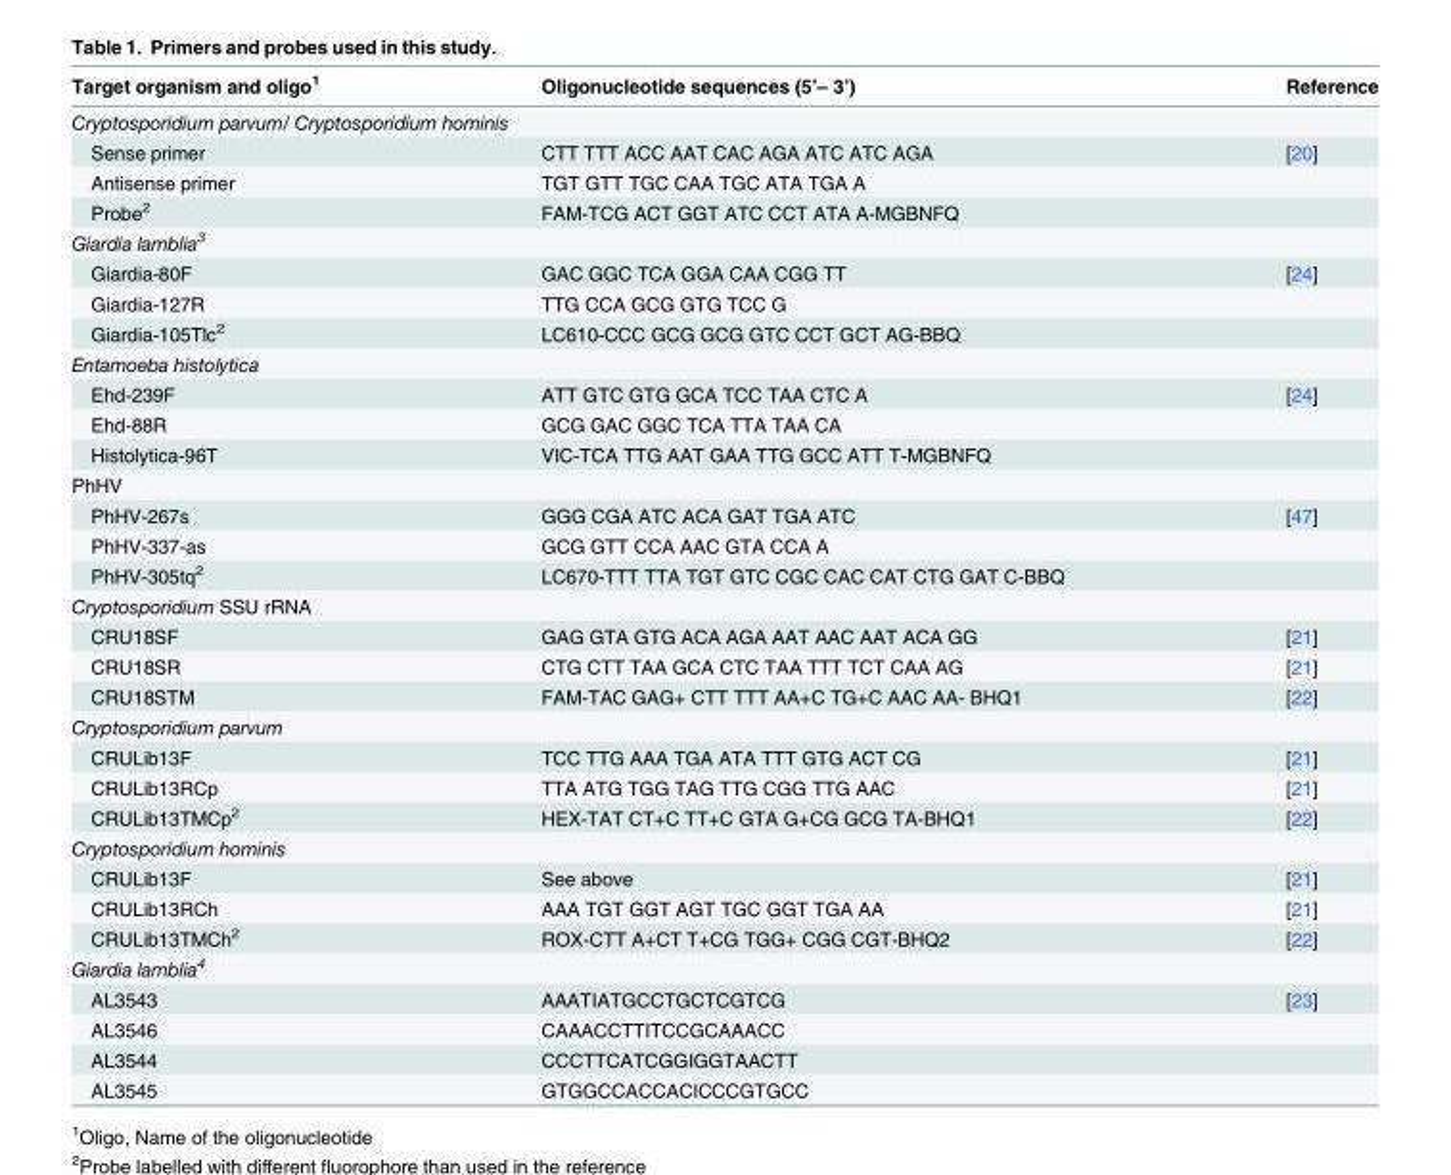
<table><thead><tr><td>Target organism and oligo<sup>1</sup></td><td>Oligonucleotide sequences (5’– 3’)</td><td>Reference</td></tr></thead><tbody><tr><td colspan="3">Cryptosporidium parvum/ Cryptosporidium hominis</td></tr><tr><td>Sense primer</td><td>CTT TTT ACC AAT CAC AGA ATC ATC AGA</td><td>[20]</td></tr><tr><td>Antisense primer</td><td>TGT GTT TGC CAA TGC ATA TGA A</td><td></td></tr><tr><td>Probe<sup>2</sup></td><td>FAM-TCG ACT GGT ATC CCT ATA A-MGBNFQ</td><td></td></tr><tr><td colspan="3">Giardia lamblia<sup>3</sup></td></tr><tr><td>Giardia-80F</td><td>GAC GGC TCA GGA CAA CGG TT</td><td>[24]</td></tr><tr><td>Giardia-127R</td><td>TTG CCA GCG GTG TCC G</td><td></td></tr><tr><td>Giardia-105Tlc<sup>2</sup></td><td>LC610-CCC GCG GCG GTC CCT GCT AG-BBQ</td><td></td></tr><tr><td colspan="3">Entamoeba histolytica</td></tr><tr><td>Ehd-239F</td><td>ATT GTC GTG GCA TCC TAA CTC A</td><td>[24]</td></tr><tr><td>Ehd-88R</td><td>GCG GAC GGC TCA TTA TAA CA</td><td></td></tr><tr><td>Histolytica-96T</td><td>VIC-TCA TTG AAT GAA TTG GCC ATT T-MGBNFQ</td><td></td></tr><tr><td colspan="3">PhHV</td></tr><tr><td>PhHV-267s</td><td>GGG CGA ATC ACA GAT TGA ATC</td><td>[47]</td></tr><tr><td>PhHV-337-as</td><td>GCG GTT CCA AAC GTA CCA A</td><td></td></tr><tr><td>PhHV-305tq<sup>2</sup></td><td>LC670-TTT TTA TGT GTC CGC CAC CAT CTG GAT C-BBQ</td><td></td></tr><tr><td colspan="3">Cryptosporidium SSU rRNA</td></tr><tr><td>CRU18SF</td><td>GAG GTA GTG ACA AGA AAT AAC AAT ACA GG</td><td>[21]</td></tr><tr><td>CRU18SR</td><td>CTG CTT TAA GCA CTC TAA TTT TCT CAA AG</td><td>[21]</td></tr><tr><td>CRU18STM</td><td>FAM-TAC GAG+ CTT TTT AA+C TG+C AAC AA- BHQ1</td><td>[22]</td></tr><tr><td colspan="3">Cryptosporidium parvum</td></tr><tr><td>CRULib13F</td><td>TCC TTG AAA TGA ATA TTT GTG ACT CG</td><td>[21]</td></tr><tr><td>CRULib13RCp</td><td>TTA ATG TGG TAG TTG CGG TTG AAC</td><td>[21]</td></tr><tr><td>CRULib13TMCp<sup>2</sup></td><td>HEX-TAT CT+C TT+C GTA G+CG GCG TA-BHQ1</td><td>[22]</td></tr><tr><td colspan="3">Cryptosporidium hominis</td></tr><tr><td>CRULib13F</td><td>See above</td><td>[21]</td></tr><tr><td>CRULib13RCh</td><td>AAA TGT GGT AGT TGC GGT TGA AA</td><td>[21]</td></tr><tr><td>CRULib13TMCh<sup>2</sup></td><td>ROX-CTT A+CT T+CG TGG+ CGG CGT-BHQ2</td><td>[22]</td></tr><tr><td colspan="3">Giardia lamblia<sup>4</sup></td></tr><tr><td>AL3543</td><td>AAATIATGCCTGCTCGTCG</td><td>[23]</td></tr><tr><td>AL3546</td><td>CAAACCTTITCCGCAAACC</td><td></td></tr><tr><td>AL3544</td><td>CCCTTCATCGGIGGTAACTT</td><td></td></tr><tr><td>AL3545</td><td>GTGGCCACCACICCCGTGCC</td><td></td></tr></tbody></table>